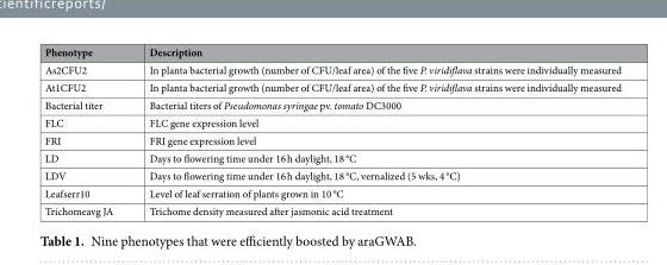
<table><thead><tr><td>Phenotype</td><td>Description</td></tr></thead><tbody><tr><td>As2CFU2</td><td>In planta bacterial growth (number of CFU/leaf area) of the five P. viridiflava strains were individually measured</td></tr><tr><td>At1CFU2</td><td>In planta bacterial growth (number of CFU/leaf area) of the five P. viridiflava strains were individually measured</td></tr><tr><td>Bacterial titer</td><td>Bacterial titers of Pseudomonas syringae pv. tomato DC3000</td></tr><tr><td>FLC</td><td>FLC gene expression level</td></tr><tr><td>FRI</td><td>FRI gene expression level</td></tr><tr><td>LD</td><td>Days to flowering time under 16 h daylight, 18 °C</td></tr><tr><td>LDV</td><td>Days to flowering time under 16 h daylight, 18 °C, vernalized (5 wks, 4 °C)</td></tr><tr><td>Leafserr10</td><td>Level of leaf serration of plants grown in 10 °C</td></tr><tr><td>Trichomeavg JA</td><td>Trichome density measured after jasmonic acid treatment</td></tr></tbody></table>